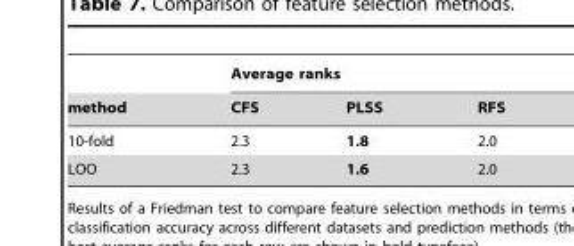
<table><thead><tr><td rowspan="2">method</td><td colspan="3">Average ranks</td></tr><tr><td>CFS</td><td>PLSS</td><td>RFS</td></tr></thead><tbody><tr><td>10-fold</td><td>2.3</td><td>1.8</td><td>2.0</td></tr><tr><td>LOO</td><td>2.3</td><td>1.6</td><td>2.0</td></tr></tbody></table>